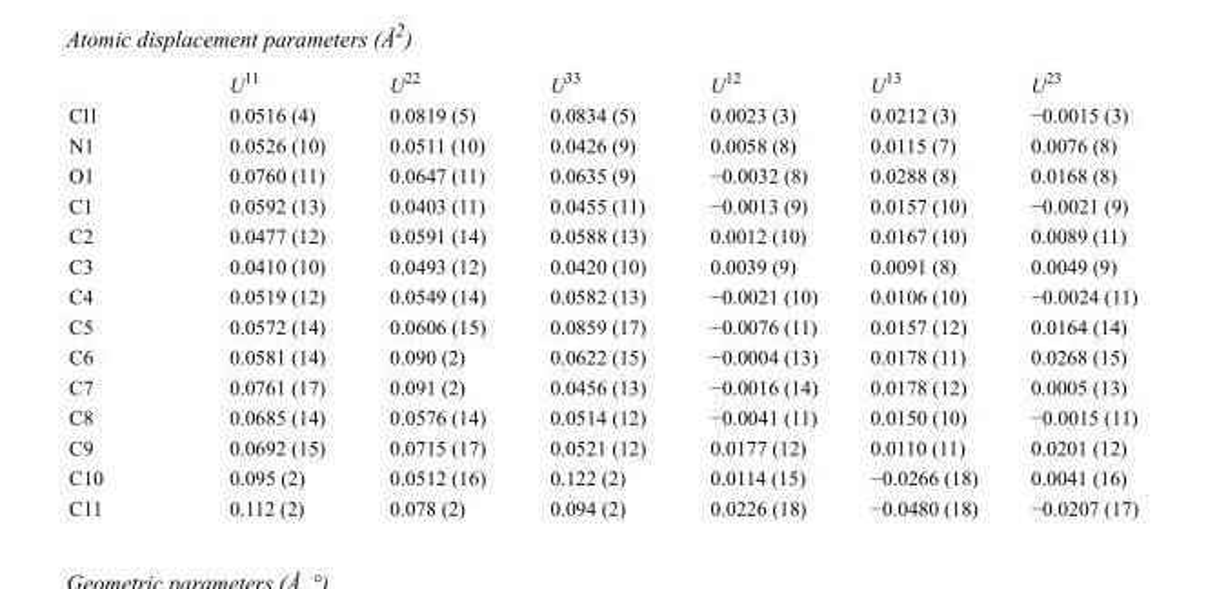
<table><thead><tr><td></td><td>U<sup>11</sup></td><td>U<sup>22</sup></td><td>U<sup>33</sup></td><td>U<sup>12</sup></td><td>U<sup>13</sup></td><td>U<sup>23</sup></td></tr></thead><tbody><tr><td>Cl1</td><td>0.0516 (4)</td><td>0.0819 (5)</td><td>0.0834 (5)</td><td>0.0023 (3)</td><td>0.0212 (3)</td><td>−0.0015 (3)</td></tr><tr><td>N1</td><td>0.0526 (10)</td><td>0.0511 (10)</td><td>0.0426 (9)</td><td>0.0058 (8)</td><td>0.0115 (7)</td><td>0.0076 (8)</td></tr><tr><td>O1</td><td>0.0760 (11)</td><td>0.0647 (11)</td><td>0.0635 (9)</td><td>−0.0032 (8)</td><td>0.0288 (8)</td><td>0.0168 (8)</td></tr><tr><td>C1</td><td>0.0592 (13)</td><td>0.0403 (11)</td><td>0.0455 (11)</td><td>−0.0013 (9)</td><td>0.0157 (10)</td><td>−0.0021 (9)</td></tr><tr><td>C2</td><td>0.0477 (12)</td><td>0.0591 (14)</td><td>0.0588 (13)</td><td>0.0012 (10)</td><td>0.0167 (10)</td><td>0.0089 (11)</td></tr><tr><td>C3</td><td>0.0410 (10)</td><td>0.0493 (12)</td><td>0.0420 (10)</td><td>0.0039 (9)</td><td>0.0091 (8)</td><td>0.0049 (9)</td></tr><tr><td>C4</td><td>0.0519 (12)</td><td>0.0549 (14)</td><td>0.0582 (13)</td><td>−0.0021 (10)</td><td>0.0106 (10)</td><td>−0.0024 (11)</td></tr><tr><td>C5</td><td>0.0572 (14)</td><td>0.0606 (15)</td><td>0.0859 (17)</td><td>−0.0076 (11)</td><td>0.0157 (12)</td><td>0.0164 (14)</td></tr><tr><td>C6</td><td>0.0581 (14)</td><td>0.090 (2)</td><td>0.0622 (15)</td><td>−0.0004 (13)</td><td>0.0178 (11)</td><td>0.0268 (15)</td></tr><tr><td>C7</td><td>0.0761 (17)</td><td>0.091 (2)</td><td>0.0456 (13)</td><td>−0.0016 (14)</td><td>0.0178 (12)</td><td>0.0005 (13)</td></tr><tr><td>C8</td><td>0.0685 (14)</td><td>0.0576 (14)</td><td>0.0514 (12)</td><td>−0.0041 (11)</td><td>0.0150 (10)</td><td>−0.0015 (11)</td></tr><tr><td>C9</td><td>0.0692 (15)</td><td>0.0715 (17)</td><td>0.0521 (12)</td><td>0.0177 (12)</td><td>0.0110 (11)</td><td>0.0201 (12)</td></tr><tr><td>C10</td><td>0.095 (2)</td><td>0.0512 (16)</td><td>0.122 (2)</td><td>0.0114 (15)</td><td>−0.0266 (18)</td><td>0.0041 (16)</td></tr><tr><td>C11</td><td>0.112 (2)</td><td>0.078 (2)</td><td>0.094 (2)</td><td>0.0226 (18)</td><td>−0.0480 (18)</td><td>−0.0207 (17)</td></tr></tbody></table>